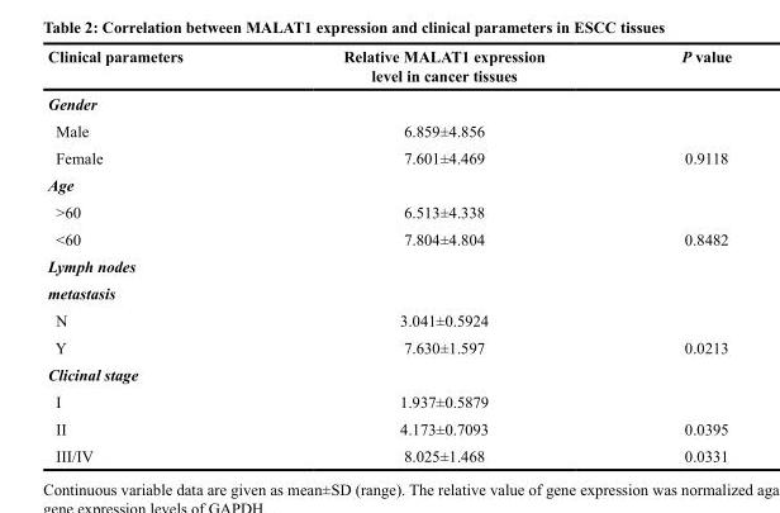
<table><thead><tr><td>Clinical parameters</td><td>Relative MALAT1 expression level in cancer tissues</td><td>P value</td></tr></thead><tbody><tr><td colspan="3">Gender</td></tr><tr><td>Male</td><td>6.859±4.856</td><td></td></tr><tr><td>Female</td><td>7.601±4.469</td><td>0.9118</td></tr><tr><td colspan="3">Age</td></tr><tr><td>&gt;60</td><td>6.513±4.338</td><td></td></tr><tr><td>&lt;60</td><td>7.804±4.804</td><td>0.8482</td></tr><tr><td colspan="3">Lymph nodes</td></tr><tr><td colspan="3">metastasis</td></tr><tr><td>N</td><td>3.041±0.5924</td><td></td></tr><tr><td>Y</td><td>7.630±1.597</td><td>0.0213</td></tr><tr><td colspan="3">Clicinal stage</td></tr><tr><td>I</td><td>1.937±0.5879</td><td></td></tr><tr><td>II</td><td>4.173±0.7093</td><td>0.0395</td></tr><tr><td>III/IV</td><td>8.025±1.468</td><td>0.0331</td></tr></tbody></table>